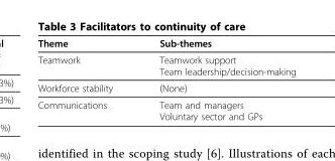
<table><thead><tr><td>Theme</td><td>Sub-themes</td></tr></thead><tbody><tr><td>Teamwork</td><td>Teamwork support Team leadership/decision-making</td></tr><tr><td>Workforce stability</td><td>(None)</td></tr><tr><td>Communications</td><td>Team and managers Voluntary sector and GPs</td></tr></tbody></table>